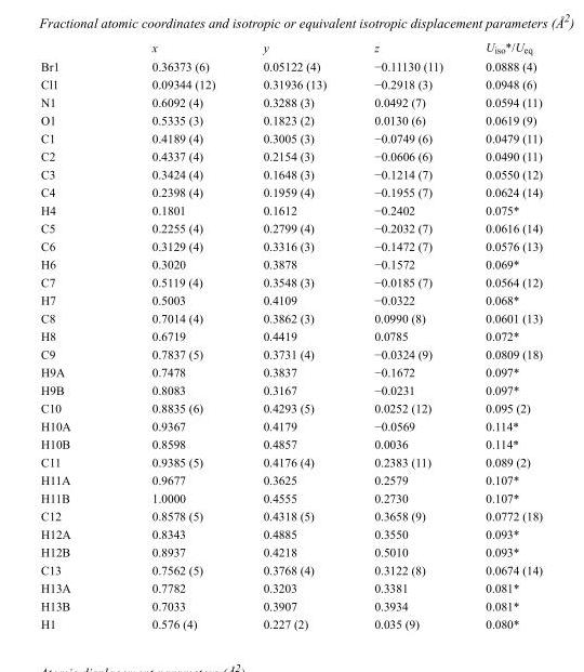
<table><thead><tr><td></td><td>x</td><td>y</td><td>z</td><td>U<sub>iso</sub>*/U<sub>eq</sub></td></tr></thead><tbody><tr><td>Br1</td><td>0.36373 (6)</td><td>0.05122 (4)</td><td>−0.11130 (11)</td><td>0.0888 (4)</td></tr><tr><td>Cl1</td><td>0.09344 (12)</td><td>0.31936 (13)</td><td>−0.2918 (3)</td><td>0.0948 (6)</td></tr><tr><td>N1</td><td>0.6092 (4)</td><td>0.3288 (3)</td><td>0.0492 (7)</td><td>0.0594 (11)</td></tr><tr><td>O1</td><td>0.5335 (3)</td><td>0.1823 (2)</td><td>0.0130 (6)</td><td>0.0619 (9)</td></tr><tr><td>C1</td><td>0.4189 (4)</td><td>0.3005 (3)</td><td>−0.0749 (6)</td><td>0.0479 (11)</td></tr><tr><td>C2</td><td>0.4337 (4)</td><td>0.2154 (3)</td><td>−0.0606 (6)</td><td>0.0490 (11)</td></tr><tr><td>C3</td><td>0.3424 (4)</td><td>0.1648 (3)</td><td>−0.1214 (7)</td><td>0.0550 (12)</td></tr><tr><td>C4</td><td>0.2398 (4)</td><td>0.1959 (4)</td><td>−0.1955 (7)</td><td>0.0624 (14)</td></tr><tr><td>H4</td><td>0.1801</td><td>0.1612</td><td>−0.2402</td><td>0.075*</td></tr><tr><td>C5</td><td>0.2255 (4)</td><td>0.2799 (4)</td><td>−0.2032 (7)</td><td>0.0616 (14)</td></tr><tr><td>C6</td><td>0.3129 (4)</td><td>0.3316 (3)</td><td>−0.1472 (7)</td><td>0.0576 (13)</td></tr><tr><td>H6</td><td>0.3020</td><td>0.3878</td><td>−0.1572</td><td>0.069*</td></tr><tr><td>C7</td><td>0.5119 (4)</td><td>0.3548 (3)</td><td>−0.0185 (7)</td><td>0.0564 (12)</td></tr><tr><td>H7</td><td>0.5003</td><td>0.4109</td><td>−0.0322</td><td>0.068*</td></tr><tr><td>C8</td><td>0.7014 (4)</td><td>0.3862 (3)</td><td>0.0990 (8)</td><td>0.0601 (13)</td></tr><tr><td>H8</td><td>0.6719</td><td>0.4419</td><td>0.0785</td><td>0.072*</td></tr><tr><td>C9</td><td>0.7837 (5)</td><td>0.3731 (4)</td><td>−0.0324 (9)</td><td>0.0809 (18)</td></tr><tr><td>H9A</td><td>0.7478</td><td>0.3837</td><td>−0.1672</td><td>0.097*</td></tr><tr><td>H9B</td><td>0.8083</td><td>0.3167</td><td>−0.0231</td><td>0.097*</td></tr><tr><td>C10</td><td>0.8835 (6)</td><td>0.4293 (5)</td><td>0.0252 (12)</td><td>0.095 (2)</td></tr><tr><td>H10A</td><td>0.9367</td><td>0.4179</td><td>−0.0569</td><td>0.114*</td></tr><tr><td>H10B</td><td>0.8598</td><td>0.4857</td><td>0.0036</td><td>0.114*</td></tr><tr><td>C11</td><td>0.9385 (5)</td><td>0.4176 (4)</td><td>0.2383 (11)</td><td>0.089 (2)</td></tr><tr><td>H11A</td><td>0.9677</td><td>0.3625</td><td>0.2579</td><td>0.107*</td></tr><tr><td>H11B</td><td>1.0000</td><td>0.4555</td><td>0.2730</td><td>0.107*</td></tr><tr><td>C12</td><td>0.8578 (5)</td><td>0.4318 (5)</td><td>0.3658 (9)</td><td>0.0772 (18)</td></tr><tr><td>H12A</td><td>0.8343</td><td>0.4885</td><td>0.3550</td><td>0.093*</td></tr><tr><td>H12B</td><td>0.8937</td><td>0.4218</td><td>0.5010</td><td>0.093*</td></tr><tr><td>C13</td><td>0.7562 (5)</td><td>0.3768 (4)</td><td>0.3122 (8)</td><td>0.0674 (14)</td></tr><tr><td>H13A</td><td>0.7782</td><td>0.3203</td><td>0.3381</td><td>0.081*</td></tr><tr><td>H13B</td><td>0.7033</td><td>0.3907</td><td>0.3934</td><td>0.081*</td></tr><tr><td>H1</td><td>0.576 (4)</td><td>0.227 (2)</td><td>0.035 (9)</td><td>0.080*</td></tr></tbody></table>